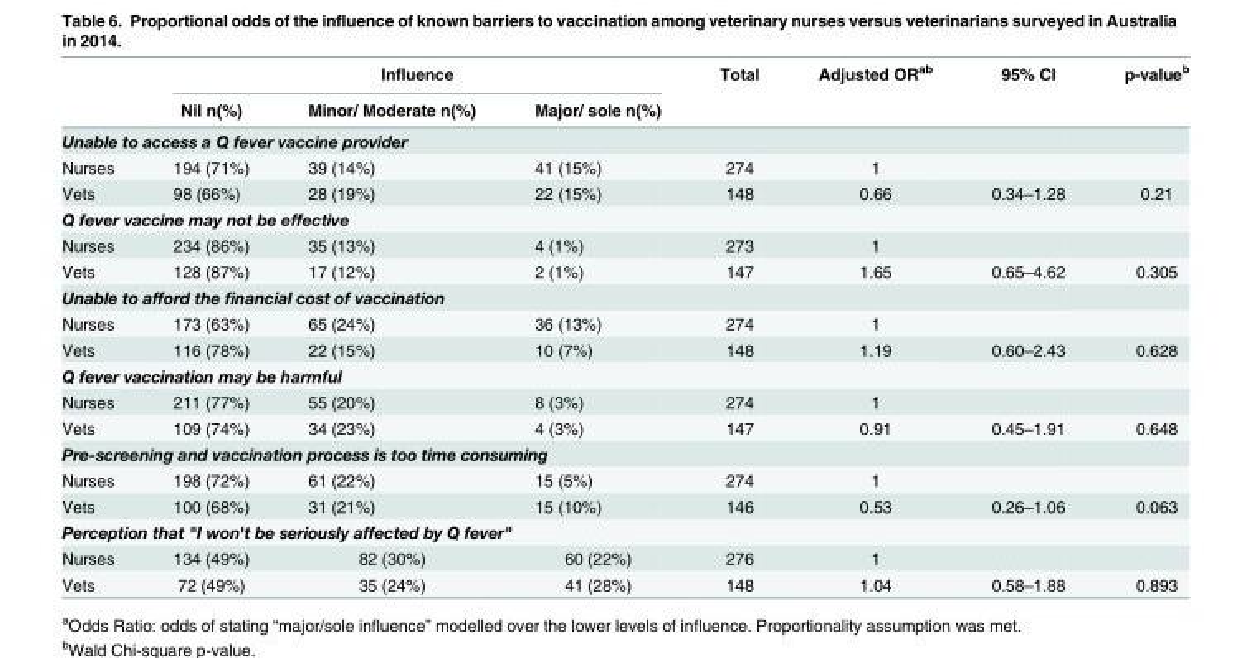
<table><thead><tr><td rowspan="2"></td><td colspan="3">Influence</td><td rowspan="2">Total</td><td rowspan="2">Adjusted OR<sup>ab</sup></td><td rowspan="2">95% CI</td><td rowspan="2">p-value<sup>b</sup></td></tr><tr><td>Nil n(%)</td><td>Minor/ Moderate n(%)</td><td>Major/ sole n(%)</td></tr></thead><tbody><tr><td colspan="8">Unable to access a Q fever vaccine provider</td></tr><tr><td>Nurses</td><td>194 (71%)</td><td>39 (14%)</td><td>41 (15%)</td><td>274</td><td>1</td><td></td><td></td></tr><tr><td>Vets</td><td>98 (66%)</td><td>28 (19%)</td><td>22 (15%)</td><td>148</td><td>0.66</td><td>0.34–1.28</td><td>0.21</td></tr><tr><td colspan="8">Q fever vaccine may not be effective</td></tr><tr><td>Nurses</td><td>234 (86%)</td><td>35 (13%)</td><td>4 (1%)</td><td>273</td><td>1</td><td></td><td></td></tr><tr><td>Vets</td><td>128 (87%)</td><td>17 (12%)</td><td>2 (1%)</td><td>147</td><td>1.65</td><td>0.65–4.62</td><td>0.305</td></tr><tr><td colspan="8">Unable to afford the financial cost of vaccination</td></tr><tr><td>Nurses</td><td>173 (63%)</td><td>65 (24%)</td><td>36 (13%)</td><td>274</td><td>1</td><td></td><td></td></tr><tr><td>Vets</td><td>116 (78%)</td><td>22 (15%)</td><td>10 (7%)</td><td>148</td><td>1.19</td><td>0.60–2.43</td><td>0.628</td></tr><tr><td colspan="8">Q fever vaccination may be harmful</td></tr><tr><td>Nurses</td><td>211 (77%)</td><td>55 (20%)</td><td>8 (3%)</td><td>274</td><td>1</td><td></td><td></td></tr><tr><td>Vets</td><td>109 (74%)</td><td>34 (23%)</td><td>4 (3%)</td><td>147</td><td>0.91</td><td>0.45–1.91</td><td>0.648</td></tr><tr><td colspan="8">Pre-screening and vaccination process is too time consuming</td></tr><tr><td>Nurses</td><td>198 (72%)</td><td>61 (22%)</td><td>15 (5%)</td><td>274</td><td>1</td><td></td><td></td></tr><tr><td>Vets</td><td>100 (68%)</td><td>31 (21%)</td><td>15 (10%)</td><td>146</td><td>0.53</td><td>0.26–1.06</td><td>0.063</td></tr><tr><td colspan="8">Perception that &quot;I won&#x27;t be seriously affected by Q fever&quot;</td></tr><tr><td>Nurses</td><td>134 (49%)</td><td>82 (30%)</td><td>60 (22%)</td><td>276</td><td>1</td><td></td><td></td></tr><tr><td>Vets</td><td>72 (49%)</td><td>35 (24%)</td><td>41 (28%)</td><td>148</td><td>1.04</td><td>0.58–1.88</td><td>0.893</td></tr></tbody></table>